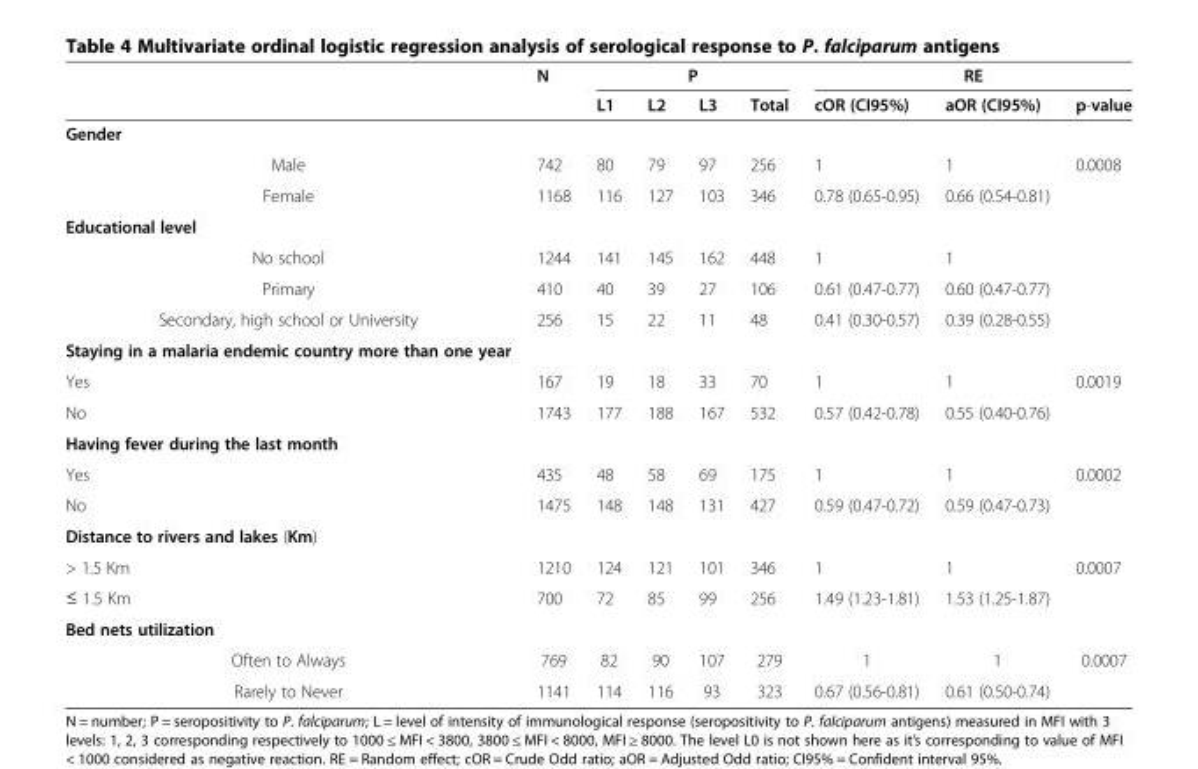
<table><thead><tr><td rowspan="2"></td><td rowspan="2">N</td><td colspan="4">P</td><td colspan="3">RE</td></tr><tr><td>L1</td><td>L2</td><td>L3</td><td>Total</td><td>cOR (CI95%)</td><td>aOR (CI95%)</td><td>p-value</td></tr></thead><tbody><tr><td colspan="9">Gender</td></tr><tr><td>Male</td><td>742</td><td>80</td><td>79</td><td>97</td><td>256</td><td>1</td><td>1</td><td rowspan="2">0.0008</td></tr><tr><td>Female</td><td>1168</td><td>116</td><td>127</td><td>103</td><td>346</td><td>0.78 (0.65-0.95)</td><td>0.66 (0.54-0.81)</td></tr><tr><td colspan="9">Educational level</td></tr><tr><td>No school</td><td>1244</td><td>141</td><td>145</td><td>162</td><td>448</td><td>1</td><td>1</td><td></td></tr><tr><td>Primary</td><td>410</td><td>40</td><td>39</td><td>27</td><td>106</td><td>0.61 (0.47-0.77)</td><td>0.60 (0.47-0.77)</td><td></td></tr><tr><td>Secondary, high school or University</td><td>256</td><td>15</td><td>22</td><td>11</td><td>48</td><td>0.41 (0.30-0.57)</td><td>0.39 (0.28-0.55)</td><td></td></tr><tr><td colspan="9">Staying in a malaria endemic country more than one year</td></tr><tr><td>Yes</td><td>167</td><td>19</td><td>18</td><td>33</td><td>70</td><td>1</td><td>1</td><td>0.0019</td></tr><tr><td>No</td><td>1743</td><td>177</td><td>188</td><td>167</td><td>532</td><td>0.57 (0.42-0.78)</td><td>0.55 (0.40-0.76)</td><td></td></tr><tr><td colspan="9">Having fever during the last month</td></tr><tr><td>Yes</td><td>435</td><td>48</td><td>58</td><td>69</td><td>175</td><td>1</td><td>1</td><td>0.0002</td></tr><tr><td>No</td><td>1475</td><td>148</td><td>148</td><td>131</td><td>427</td><td>0.59 (0.47-0.72)</td><td>0.59 (0.47-0.73)</td><td></td></tr><tr><td colspan="9">Distance to rivers and lakes (Km)</td></tr><tr><td>&gt; 1.5 Km</td><td>1210</td><td>124</td><td>121</td><td>101</td><td>346</td><td>1</td><td>1</td><td>0.0007</td></tr><tr><td>≤ 1.5 Km</td><td>700</td><td>72</td><td>85</td><td>99</td><td>256</td><td>1.49 (1.23-1.81)</td><td>1.53 (1.25-1.87)</td><td></td></tr><tr><td colspan="9">Bed nets utilization</td></tr><tr><td>Often to Always</td><td>769</td><td>82</td><td>90</td><td>107</td><td>279</td><td>1</td><td>1</td><td>0.0007</td></tr><tr><td>Rarely to Never</td><td>1141</td><td>114</td><td>116</td><td>93</td><td>323</td><td>0.67 (0.56-0.81)</td><td>0.61 (0.50-0.74)</td><td></td></tr></tbody></table>